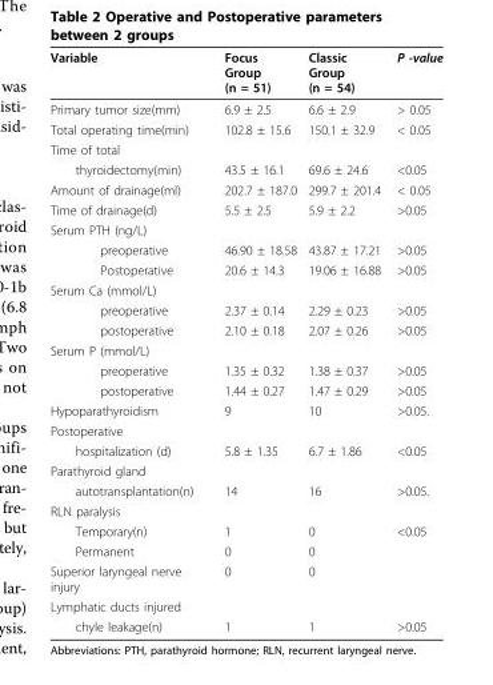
<table><thead><tr><td>Variable</td><td>Focus Group (n = 51)</td><td>Classic Group (n = 54)</td><td>P -value</td></tr></thead><tbody><tr><td>Primary tumor size(mm)</td><td>6.9 ± 2.5</td><td>6.6 ± 2.9</td><td>&gt; 0.05</td></tr><tr><td>Total operating time(min)</td><td>102.8 ± 15.6</td><td>150.1 ± 32.9</td><td>&lt; 0.05</td></tr><tr><td colspan="4">Time of total</td></tr><tr><td>thyroidectomy(min)</td><td>43.5 ± 16.1</td><td>69.6 ± 24.6</td><td>&lt;0.05</td></tr><tr><td>Amount of drainage(ml)</td><td>202.7 ± 187.0</td><td>299.7 ± 201.4</td><td>&lt; 0.05</td></tr><tr><td>Time of drainage(d)</td><td>5.5 ± 2.5</td><td>5.9 ± 2.2</td><td>&gt;0.05</td></tr><tr><td colspan="4">Serum PTH (ng/L)</td></tr><tr><td>preoperative</td><td>46.90 ± 18.58</td><td>43.87 ± 17.21</td><td>&gt;0.05</td></tr><tr><td>Postoperative</td><td>20.6 ± 14.3</td><td>19.06 ± 16.88</td><td>&gt;0.05</td></tr><tr><td colspan="4">Serum Ca (mmol/L)</td></tr><tr><td>preoperative</td><td>2.37 ± 0.14</td><td>2.29 ± 0.23</td><td>&gt;0.05</td></tr><tr><td>postoperative</td><td>2.10 ± 0.18</td><td>2.07 ± 0.26</td><td>&gt;0.05</td></tr><tr><td colspan="4">Serum P (mmol/L)</td></tr><tr><td>preoperative</td><td>1.35 ± 0.32</td><td>1.38 ± 0.37</td><td>&gt;0.05</td></tr><tr><td>postoperative</td><td>1.44 ± 0.27</td><td>1.47 ± 0.29</td><td>&gt;0.05</td></tr><tr><td>Hypoparathyroidism</td><td>9</td><td>10</td><td>&gt;0.05.</td></tr><tr><td colspan="4">Postoperative</td></tr><tr><td>hospitalization (d)</td><td>5.8 ± 1.35</td><td>6.7 ± 1.86</td><td>&lt;0.05</td></tr><tr><td colspan="4">Parathyroid gland</td></tr><tr><td>autotransplantation(n)</td><td>14</td><td>16</td><td>&gt;0.05.</td></tr><tr><td colspan="4">RLN paralysis</td></tr><tr><td>Temporary(n)</td><td>1</td><td>0</td><td>&lt;0.05</td></tr><tr><td>Permanent</td><td>0</td><td>0</td><td></td></tr><tr><td>Superior laryngeal nerve injury</td><td>0</td><td>0</td><td></td></tr><tr><td colspan="4">Lymphatic ducts injured</td></tr><tr><td>chyle leakage(n)</td><td>1</td><td>1</td><td>&gt;0.05</td></tr></tbody></table>